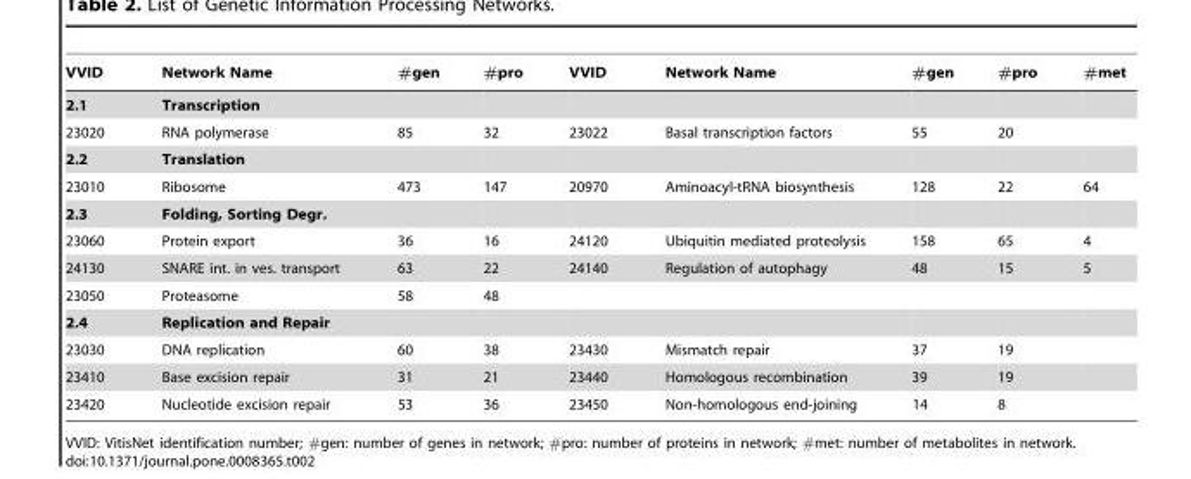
<table><thead><tr><td>VVID</td><td>Network Name</td><td>#gen</td><td>#pro</td><td>VVID</td><td>Network Name</td><td>#gen</td><td>#pro</td><td>#met</td></tr></thead><tbody><tr><td>2.1</td><td>Transcription</td><td></td><td></td><td></td><td></td><td></td><td></td><td></td></tr><tr><td>23020</td><td>RNA polymerase</td><td>85</td><td>32</td><td>23022</td><td>Basal transcription factors</td><td>55</td><td>20</td><td></td></tr><tr><td>2.2</td><td>Translation</td><td></td><td></td><td></td><td></td><td></td><td></td><td></td></tr><tr><td>23010</td><td>Ribosome</td><td>473</td><td>147</td><td>20970</td><td>Aminoacyl-tRNA biosynthesis</td><td>128</td><td>22</td><td>64</td></tr><tr><td>2.3</td><td>Folding, Sorting Degr.</td><td></td><td></td><td></td><td></td><td></td><td></td><td></td></tr><tr><td>23060</td><td>Protein export</td><td>36</td><td>16</td><td>24120</td><td>Ubiquitin mediated proteolysis</td><td>158</td><td>65</td><td>4</td></tr><tr><td>24130</td><td>SNARE int. in ves. transport</td><td>63</td><td>22</td><td>24140</td><td>Regulation of autophagy</td><td>48</td><td>15</td><td>5</td></tr><tr><td>23050</td><td>Proteasome</td><td>58</td><td>48</td><td></td><td></td><td></td><td></td><td></td></tr><tr><td>2.4</td><td>Replication and Repair</td><td></td><td></td><td></td><td></td><td></td><td></td><td></td></tr><tr><td>23030</td><td>DNA replication</td><td>60</td><td>38</td><td>23430</td><td>Mismatch repair</td><td>37</td><td>19</td><td></td></tr><tr><td>23410</td><td>Base excision repair</td><td>31</td><td>21</td><td>23440</td><td>Homologous recombination</td><td>39</td><td>19</td><td></td></tr><tr><td>23420</td><td>Nucleotide excision repair</td><td>53</td><td>36</td><td>23450</td><td>Non-homologous end-joining</td><td>14</td><td>8</td><td></td></tr></tbody></table>